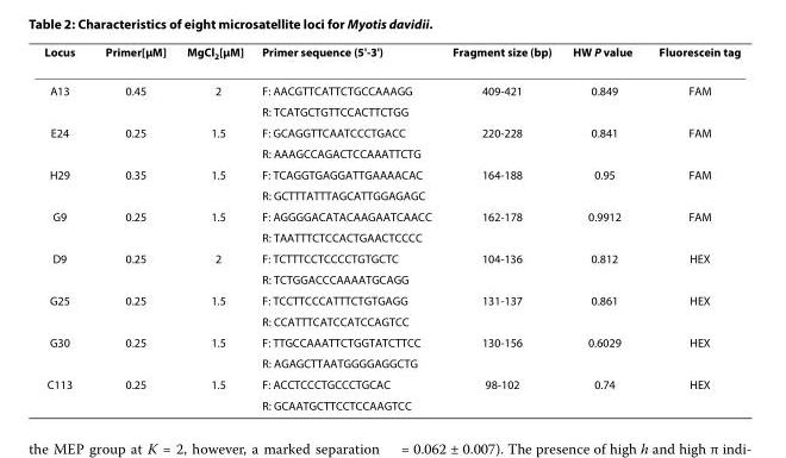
<table><thead><tr><td>Locus</td><td>Primer[μM]</td><td>MgCl<sub>2</sub>[μM]</td><td>Primer sequence (5&#x27;-3&#x27;)</td><td>Fragment size (bp)</td><td>HW P value</td><td>Fluorescein tag</td></tr></thead><tbody><tr><td rowspan="2">A13</td><td>0.45</td><td>2</td><td>F: AACGTTCATTCTGCCAAAGG</td><td>409-421</td><td>0.849</td><td>FAM</td></tr><tr><td></td><td></td><td>R: TCATGCTGTTCCACTTCTGG</td><td></td><td></td><td></td></tr><tr><td rowspan="2">E24</td><td>0.25</td><td>1.5</td><td>F: GCAGGTTCAATCCCTGACC</td><td>220-228</td><td>0.841</td><td>FAM</td></tr><tr><td></td><td></td><td>R: AAAGCCAGACTCCAAATTCTG</td><td></td><td></td><td></td></tr><tr><td rowspan="2">H29</td><td>0.35</td><td>1.5</td><td>F: TCAGGTGAGGATTGAAAACAC</td><td>164-188</td><td>0.95</td><td>FAM</td></tr><tr><td></td><td></td><td>R: GCTTTATTTAGCATTGGAGAGC</td><td></td><td></td><td></td></tr><tr><td rowspan="2">G9</td><td>0.25</td><td>1.5</td><td>F: AGGGGACATACAAGAATCAACC</td><td>162-178</td><td>0.9912</td><td>FAM</td></tr><tr><td></td><td></td><td>R: TAATTTCTCCACTGAACTCCCC</td><td></td><td></td><td></td></tr><tr><td rowspan="2">D9</td><td>0.25</td><td>2</td><td>F: TCTTTCCTCCCCTGTGCTC</td><td>104-136</td><td>0.812</td><td>HEX</td></tr><tr><td></td><td></td><td>R: TCTGGACCCAAAATGCAGG</td><td></td><td></td><td></td></tr><tr><td rowspan="2">G25</td><td>0.25</td><td>1.5</td><td>F: TCCTTCCCATTTCTGTGAGG</td><td>131-137</td><td>0.861</td><td>HEX</td></tr><tr><td></td><td></td><td>R: CCATTTCATCCATCCAGTCC</td><td></td><td></td><td></td></tr><tr><td rowspan="2">G30</td><td>0.25</td><td>1.5</td><td>F: TTGCCAAATTCTGGTATCTTCC</td><td>130-156</td><td>0.6029</td><td>HEX</td></tr><tr><td></td><td></td><td>R: AGAGCTTAATGGGGAGGCTG</td><td></td><td></td><td></td></tr><tr><td rowspan="2">C113</td><td>0.25</td><td>1.5</td><td>F: ACCTCCCTGCCCTGCAC</td><td>98-102</td><td>0.74</td><td>HEX</td></tr><tr><td></td><td></td><td>R: GCAATGCTTCCTCCAAGTCC</td><td></td><td></td><td></td></tr></tbody></table>